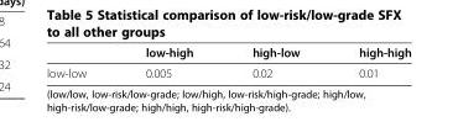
<table><thead><tr><td></td><td>low-high</td><td>high-low</td><td>high-high</td></tr></thead><tbody><tr><td>low-low</td><td>0.005</td><td>0.02</td><td>0.01</td></tr></tbody></table>